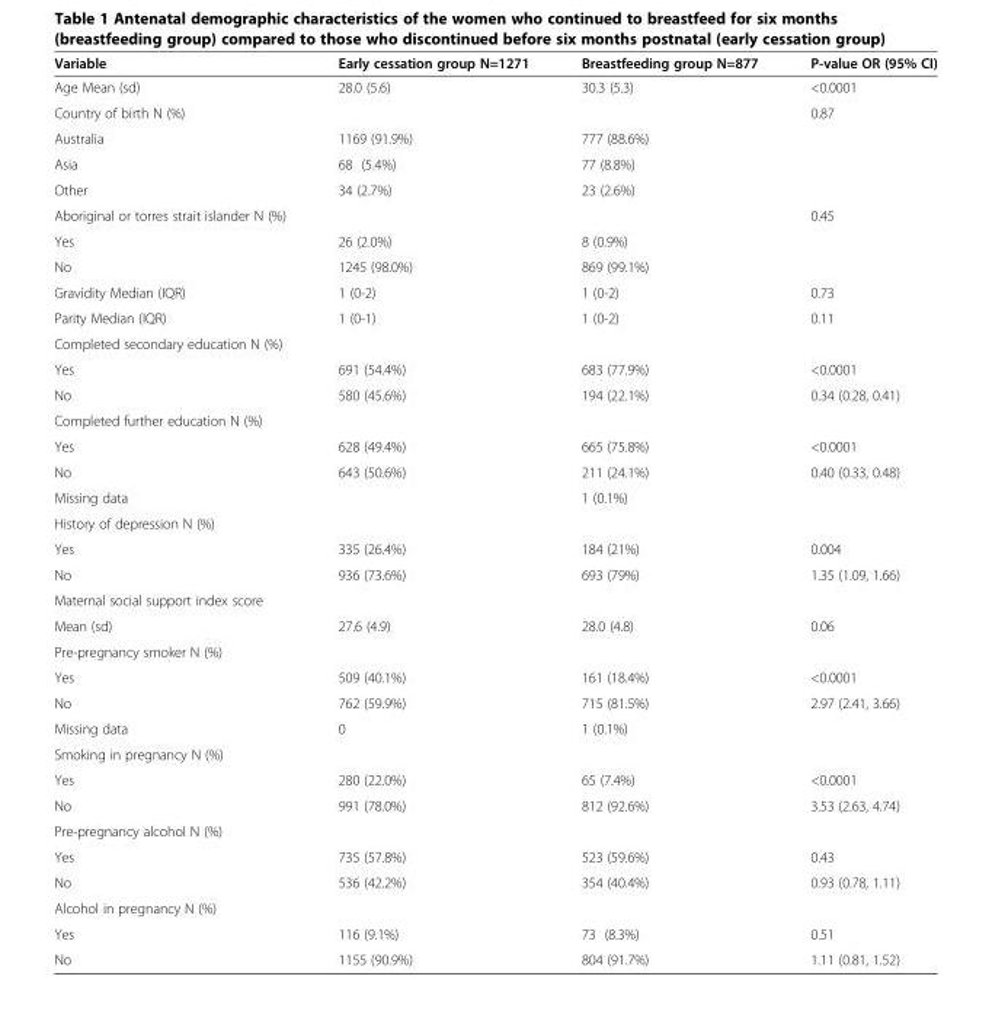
<table><thead><tr><td>Variable</td><td>Early cessation group N=1271</td><td>Breastfeeding group N=877</td><td>P-value OR (95% CI)</td></tr></thead><tbody><tr><td>Age Mean (sd)</td><td>28.0 (5.6)</td><td>30.3 (5.3)</td><td>&lt;0.0001</td></tr><tr><td>Country of birth N (%)</td><td></td><td></td><td>0.87</td></tr><tr><td>Australia</td><td>1169 (91.9%)</td><td>777 (88.6%)</td><td></td></tr><tr><td>Asia</td><td>68 (5.4%)</td><td>77 (8.8%)</td><td></td></tr><tr><td>Other</td><td>34 (2.7%)</td><td>23 (2.6%)</td><td></td></tr><tr><td>Aboriginal or torres strait islander N (%)</td><td></td><td></td><td>0.45</td></tr><tr><td>Yes</td><td>26 (2.0%)</td><td>8 (0.9%)</td><td></td></tr><tr><td>No</td><td>1245 (98.0%)</td><td>869 (99.1%)</td><td></td></tr><tr><td>Gravidity Median (IQR)</td><td>1 (0-2)</td><td>1 (0-2)</td><td>0.73</td></tr><tr><td>Parity Median (IQR)</td><td>1 (0-1)</td><td>1 (0-2)</td><td>0.11</td></tr><tr><td colspan="4">Completed secondary education N (%)</td></tr><tr><td>Yes</td><td>691 (54.4%)</td><td>683 (77.9%)</td><td>&lt;0.0001</td></tr><tr><td>No</td><td>580 (45.6%)</td><td>194 (22.1%)</td><td>0.34 (0.28, 0.41)</td></tr><tr><td colspan="4">Completed further education N (%)</td></tr><tr><td>Yes</td><td>628 (49.4%)</td><td>665 (75.8%)</td><td>&lt;0.0001</td></tr><tr><td>No</td><td>643 (50.6%)</td><td>211 (24.1%)</td><td>0.40 (0.33, 0.48)</td></tr><tr><td>Missing data</td><td></td><td>1 (0.1%)</td><td></td></tr><tr><td colspan="4">History of depression N (%)</td></tr><tr><td>Yes</td><td>335 (26.4%)</td><td>184 (21%)</td><td>0.004</td></tr><tr><td>No</td><td>936 (73.6%)</td><td>693 (79%)</td><td>1.35 (1.09, 1.66)</td></tr><tr><td colspan="4">Maternal social support index score</td></tr><tr><td>Mean (sd)</td><td>27.6 (4.9)</td><td>28.0 (4.8)</td><td>0.06</td></tr><tr><td colspan="4">Pre-pregnancy smoker N (%)</td></tr><tr><td>Yes</td><td>509 (40.1%)</td><td>161 (18.4%)</td><td>&lt;0.0001</td></tr><tr><td>No</td><td>762 (59.9%)</td><td>715 (81.5%)</td><td>2.97 (2.41, 3.66)</td></tr><tr><td>Missing data</td><td>0</td><td>1 (0.1%)</td><td></td></tr><tr><td colspan="4">Smoking in pregnancy N (%)</td></tr><tr><td>Yes</td><td>280 (22.0%)</td><td>65 (7.4%)</td><td>&lt;0.0001</td></tr><tr><td>No</td><td>991 (78.0%)</td><td>812 (92.6%)</td><td>3.53 (2.63, 4.74)</td></tr><tr><td colspan="4">Pre-pregnancy alcohol N (%)</td></tr><tr><td>Yes</td><td>735 (57.8%)</td><td>523 (59.6%)</td><td>0.43</td></tr><tr><td>No</td><td>536 (42.2%)</td><td>354 (40.4%)</td><td>0.93 (0.78, 1.11)</td></tr><tr><td colspan="4">Alcohol in pregnancy N (%)</td></tr><tr><td>Yes</td><td>116 (9.1%)</td><td>73 (8.3%)</td><td>0.51</td></tr><tr><td>No</td><td>1155 (90.9%)</td><td>804 (91.7%)</td><td>1.11 (0.81, 1.52)</td></tr></tbody></table>